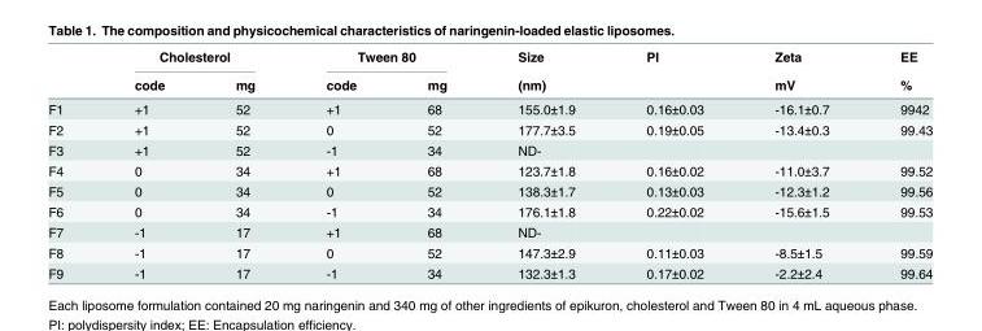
<table><thead><tr><td rowspan="2"></td><td colspan="2">Cholesterol</td><td colspan="2">Tween 80</td><td rowspan="2">Size (nm)</td><td rowspan="2">PI</td><td rowspan="2">Zeta mV</td><td rowspan="2">EE %</td></tr><tr><td>code</td><td>mg</td><td>code</td><td>mg</td></tr></thead><tbody><tr><td>F1</td><td>+1</td><td>52</td><td>+1</td><td>68</td><td>155.0±1.9</td><td>0.16±0.03</td><td>-16.1±0.7</td><td>9942</td></tr><tr><td>F2</td><td>+1</td><td>52</td><td>0</td><td>52</td><td>177.7±3.5</td><td>0.19±0.05</td><td>-13.4±0.3</td><td>99.43</td></tr><tr><td>F3</td><td>+1</td><td>52</td><td>-1</td><td>34</td><td>ND-</td><td></td><td></td><td></td></tr><tr><td>F4</td><td>0</td><td>34</td><td>+1</td><td>68</td><td>123.7±1.8</td><td>0.16±0.02</td><td>-11.0±3.7</td><td>99.52</td></tr><tr><td>F5</td><td>0</td><td>34</td><td>0</td><td>52</td><td>138.3±1.7</td><td>0.13±0.03</td><td>-12.3±1.2</td><td>99.56</td></tr><tr><td>F6</td><td>0</td><td>34</td><td>-1</td><td>34</td><td>176.1±1.8</td><td>0.22±0.02</td><td>-15.6±1.5</td><td>99.53</td></tr><tr><td>F7</td><td>-1</td><td>17</td><td>+1</td><td>68</td><td>ND-</td><td></td><td></td><td></td></tr><tr><td>F8</td><td>-1</td><td>17</td><td>0</td><td>52</td><td>147.3±2.9</td><td>0.11±0.03</td><td>-8.5±1.5</td><td>99.59</td></tr><tr><td>F9</td><td>-1</td><td>17</td><td>-1</td><td>34</td><td>132.3±1.3</td><td>0.17±0.02</td><td>-2.2±2.4</td><td>99.64</td></tr></tbody></table>